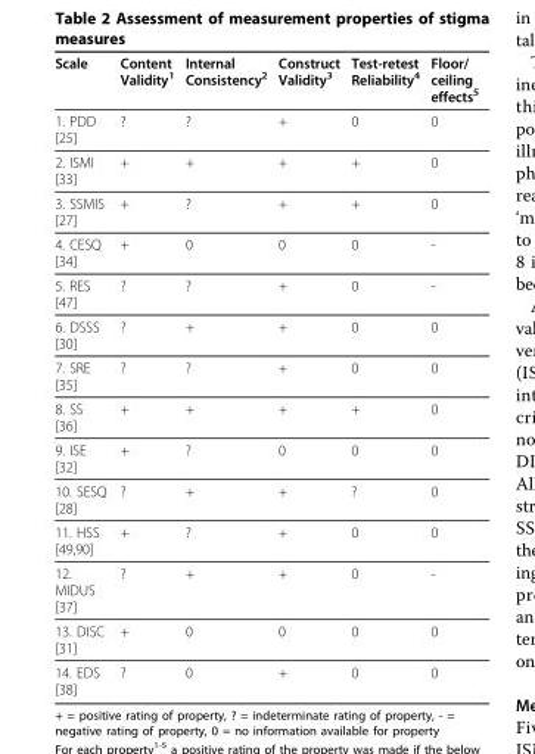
<table><thead><tr><td>Scale</td><td>Content Validity<sup>1</sup></td><td>Internal Consistency<sup>2</sup></td><td>Construct Validity<sup>3</sup></td><td>Test-retest Reliability<sup>4</sup></td><td>Floor/ ceiling effects<sup>5</sup></td></tr></thead><tbody><tr><td>1. PDD [25]</td><td>?</td><td>?</td><td>+</td><td>0</td><td>0</td></tr><tr><td>2. ISMI [33]</td><td>+</td><td>+</td><td>+</td><td>+</td><td>0</td></tr><tr><td>3. SSMIS [27]</td><td>+</td><td>?</td><td>+</td><td>+</td><td>0</td></tr><tr><td>4. CESQ [34]</td><td>+</td><td>0</td><td>0</td><td>0</td><td>-</td></tr><tr><td>5. RES [47]</td><td>?</td><td>?</td><td>+</td><td>0</td><td>-</td></tr><tr><td>6. DSSS [30]</td><td>?</td><td>+</td><td>+</td><td>0</td><td>0</td></tr><tr><td>7. SRE [35]</td><td>?</td><td>?</td><td>+</td><td>0</td><td>0</td></tr><tr><td>8. SS [36]</td><td>+</td><td>+</td><td>+</td><td>+</td><td>0</td></tr><tr><td>9. ISE [32]</td><td>+</td><td>?</td><td>0</td><td>0</td><td>0</td></tr><tr><td>10. SESQ [28]</td><td>?</td><td>+</td><td>+</td><td>?</td><td>0</td></tr><tr><td>11. HSS [49,90]</td><td>+</td><td>?</td><td>+</td><td>0</td><td>0</td></tr><tr><td>12. MIDUS [37]</td><td>?</td><td>+</td><td>+</td><td>0</td><td>-</td></tr><tr><td>13. DISC [31]</td><td>+</td><td>0</td><td>0</td><td>0</td><td>0</td></tr><tr><td>14. EDS [38]</td><td>?</td><td>0</td><td>+</td><td>0</td><td>0</td></tr></tbody></table>